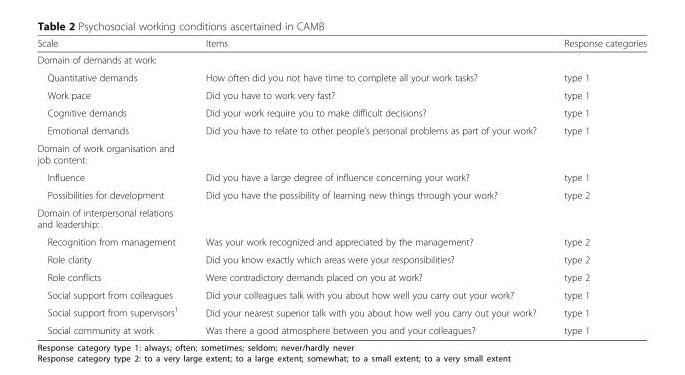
<table><thead><tr><td>Scale</td><td>Items</td><td>Response categories</td></tr></thead><tbody><tr><td colspan="3">Domain of demands at work:</td></tr><tr><td>Quantitative demands</td><td>How often did you not have time to complete all your work tasks?</td><td>type 1</td></tr><tr><td>Work pace</td><td>Did you have to work very fast?</td><td>type 1</td></tr><tr><td>Cognitive demands</td><td>Did your work require you to make difficult decisions?</td><td>type 1</td></tr><tr><td>Emotional demands</td><td>Did you have to relate to other people’s personal problems as part of your work?</td><td>type 1</td></tr><tr><td colspan="3">Domain of work organisation and job content:</td></tr><tr><td>Influence</td><td>Did you have a large degree of influence concerning your work?</td><td>type 1</td></tr><tr><td>Possibilities for development</td><td>Did you have the possibility of learning new things through your work?</td><td>type 2</td></tr><tr><td colspan="3">Domain of interpersonal relations and leadership:</td></tr><tr><td>Recognition from management</td><td>Was your work recognized and appreciated by the management?</td><td>type 2</td></tr><tr><td>Role clarity</td><td>Did you know exactly which areas were your responsibilities?</td><td>type 2</td></tr><tr><td>Role conflicts</td><td>Were contradictory demands placed on you at work?</td><td>type 2</td></tr><tr><td>Social support from colleagues</td><td>Did your colleagues talk with you about how well you carry out your work?</td><td>type 1</td></tr><tr><td>Social support from supervisors<sup>1</sup></td><td>Did your nearest superior talk with you about how well you carry out your work?</td><td>type 1</td></tr><tr><td>Social community at work</td><td>Was there a good atmosphere between you and your colleagues?</td><td>type 1</td></tr></tbody></table>